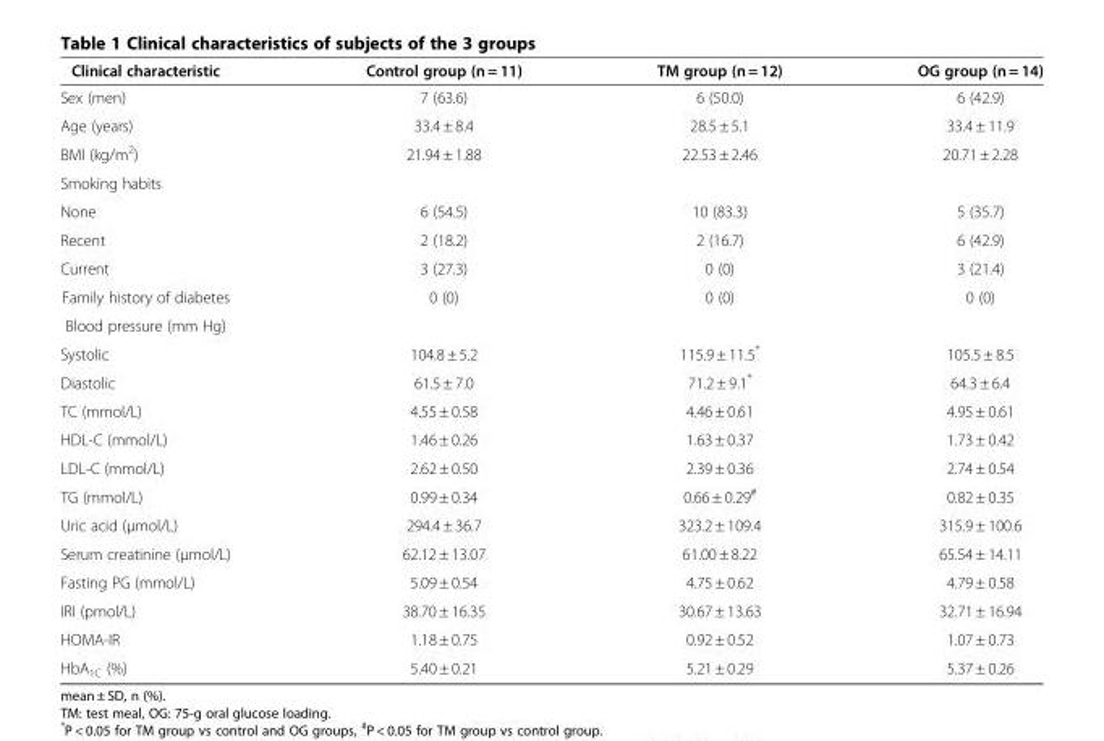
<table><thead><tr><td>Clinical characteristic</td><td>Control group (n = 11)</td><td>TM group (n = 12)</td><td>OG group (n = 14)</td></tr></thead><tbody><tr><td>Sex (men)</td><td>7 (63.6)</td><td>6 (50.0)</td><td>6 (42.9)</td></tr><tr><td>Age (years)</td><td>33.4 ± 8.4</td><td>28.5 ± 5.1</td><td>33.4 ± 11.9</td></tr><tr><td>BMI (kg/m<sup>2</sup>)</td><td>21.94 ± 1.88</td><td>22.53 ± 2.46</td><td>20.71 ± 2.28</td></tr><tr><td colspan="4">Smoking habits</td></tr><tr><td>None</td><td>6 (54.5)</td><td>10 (83.3)</td><td>5 (35.7)</td></tr><tr><td>Recent</td><td>2 (18.2)</td><td>2 (16.7)</td><td>6 (42.9)</td></tr><tr><td>Current</td><td>3 (27.3)</td><td>0 (0)</td><td>3 (21.4)</td></tr><tr><td>Family history of diabetes</td><td>0 (0)</td><td>0 (0)</td><td>0 (0)</td></tr><tr><td colspan="4">Blood pressure (mm Hg)</td></tr><tr><td>Systolic</td><td>104.8 ± 5.2</td><td>115.9 ± 11.5*</td><td>105.5 ± 8.5</td></tr><tr><td>Diastolic</td><td>61.5 ± 7.0</td><td>71.2 ± 9.1*</td><td>64.3 ± 6.4</td></tr><tr><td>TC (mmol/L)</td><td>4.55 ± 0.58</td><td>4.46 ± 0.61</td><td>4.95 ± 0.61</td></tr><tr><td>HDL-C (mmol/L)</td><td>1.46 ± 0.26</td><td>1.63 ± 0.37</td><td>1.73 ± 0.42</td></tr><tr><td>LDL-C (mmol/L)</td><td>2.62 ± 0.50</td><td>2.39 ± 0.36</td><td>2.74 ± 0.54</td></tr><tr><td>TG (mmol/L)</td><td>0.99 ± 0.34</td><td>0.66 ± 0.29<sup>#</sup></td><td>0.82 ± 0.35</td></tr><tr><td>Uric acid (μmol/L)</td><td>294.4 ± 36.7</td><td>323.2 ± 109.4</td><td>315.9 ± 100.6</td></tr><tr><td>Serum creatinine (μmol/L)</td><td>62.12 ± 13.07</td><td>61.00 ± 8.22</td><td>65.54 ± 14.11</td></tr><tr><td>Fasting PG (mmol/L)</td><td>5.09 ± 0.54</td><td>4.75 ± 0.62</td><td>4.79 ± 0.58</td></tr><tr><td>IRI (pmol/L)</td><td>38.70 ± 16.35</td><td>30.67 ± 13.63</td><td>32.71 ± 16.94</td></tr><tr><td>HOMA-IR</td><td>1.18 ± 0.75</td><td>0.92 ± 0.52</td><td>1.07 ± 0.73</td></tr><tr><td>HbA<sub>1C</sub> (%)</td><td>5.40 ± 0.21</td><td>5.21 ± 0.29</td><td>5.37 ± 0.26</td></tr></tbody></table>